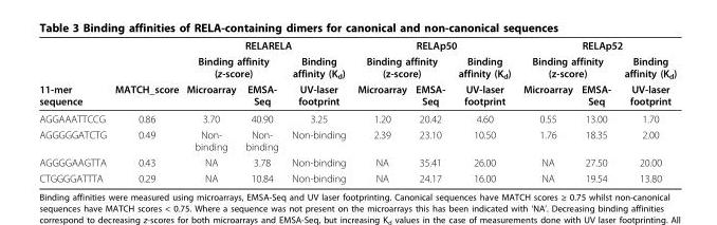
<table><thead><tr><td rowspan="3">11-mer sequence</td><td rowspan="3">MATCH_score</td><td colspan="3">RELARELA</td><td colspan="3">RELAp50</td><td colspan="3">RELAp52</td></tr><tr><td colspan="2">Binding affinity (z-score)</td><td rowspan="2">Binding affinity (K<sub>d</sub>) UV-laser footprint</td><td colspan="2">Binding affinity (z-score)</td><td rowspan="2">Binding affinity (K<sub>d</sub>) UV-laser footprint</td><td colspan="2">Binding affinity (z-score)</td><td rowspan="2">Binding affinity (K<sub>d</sub>) UV-laser footprint</td></tr><tr><td>Microarray</td><td>EMSA- Seq</td><td>Microarray</td><td>EMSA- Seq</td><td>Microarray</td><td>EMSA- Seq</td></tr></thead><tbody><tr><td>AGGAAATTCCG</td><td>0.86</td><td>3.70</td><td>40.90</td><td>3.25</td><td>1.20</td><td>20.42</td><td>4.60</td><td>0.55</td><td>13.00</td><td>1.70</td></tr><tr><td>AGGGGGATCTG</td><td>0.49</td><td>Non- binding</td><td>Non- binding</td><td>Non-binding</td><td>2.39</td><td>23.10</td><td>10.50</td><td>1.76</td><td>18.35</td><td>2.00</td></tr><tr><td>AGGGGAAGTTA</td><td>0.43</td><td>NA</td><td>3.78</td><td>Non-binding</td><td>NA</td><td>35.41</td><td>26.00</td><td>NA</td><td>27.50</td><td>20.00</td></tr><tr><td>CTGGGGATTTA</td><td>0.29</td><td>NA</td><td>10.84</td><td>Non-binding</td><td>NA</td><td>24.17</td><td>16.00</td><td>NA</td><td>19.54</td><td>13.80</td></tr></tbody></table>